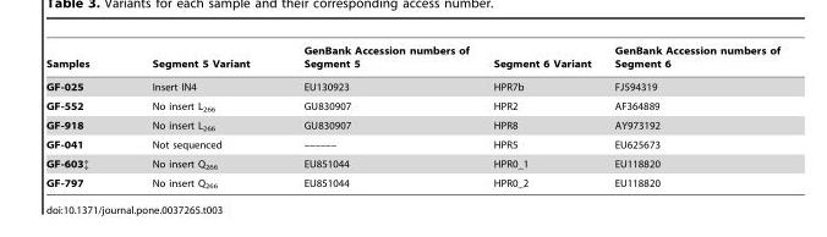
<table><thead><tr><td>Samples</td><td>Segment 5 Variant</td><td>GenBank Accession numbers of Segment 5</td><td>Segment 6 Variant</td><td>GenBank Accession numbers of Segment 6</td></tr></thead><tbody><tr><td>GF-025</td><td>Insert IN4</td><td>EU130923</td><td>HPR7b</td><td>FJ594319</td></tr><tr><td>GF-552</td><td>No insert L<sub>266</sub></td><td>GU830907</td><td>HPR2</td><td>AF364889</td></tr><tr><td>GF-918</td><td>No insert L<sub>266</sub></td><td>GU830907</td><td>HPR8</td><td>AY973192</td></tr><tr><td>GF-041</td><td>Not sequenced</td><td>––––––</td><td>HPR5</td><td>EU625673</td></tr><tr><td>GF-603‡</td><td>No insert Q<sub>266</sub></td><td>EU851044</td><td>HPR0_1</td><td>EU118820</td></tr><tr><td>GF-797</td><td>No insert Q<sub>266</sub></td><td>EU851044</td><td>HPR0_2</td><td>EU118820</td></tr></tbody></table>